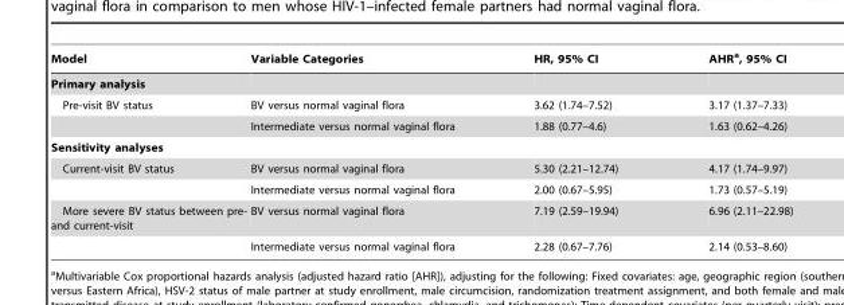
<table><thead><tr><td>Model</td><td>Variable Categories</td><td>HR, 95% CI</td><td>AHR<sup>a</sup>, 95% CI</td></tr></thead><tbody><tr><td colspan="4">Primary analysis</td></tr><tr><td rowspan="2">Pre-visit BV status</td><td>BV versus normal vaginal flora</td><td>3.62 (1.74–7.52)</td><td>3.17 (1.37–7.33)</td></tr><tr><td>Intermediate versus normal vaginal flora</td><td>1.88 (0.77–4.6)</td><td>1.63 (0.62–4.26)</td></tr><tr><td colspan="4">Sensitivity analyses</td></tr><tr><td rowspan="2">Current-visit BV status</td><td>BV versus normal vaginal flora</td><td>5.30 (2.21–12.74)</td><td>4.17 (1.74–9.97)</td></tr><tr><td>Intermediate versus normal vaginal flora</td><td>2.00 (0.67–5.95)</td><td>1.73 (0.57–5.19)</td></tr><tr><td rowspan="2">More severe BV status between pre- and current-visit</td><td>BV versus normal vaginal flora</td><td>7.19 (2.59–19.94)</td><td>6.96 (2.11–22.98)</td></tr><tr><td>Intermediate versus normal vaginal flora</td><td>2.28 (0.67–7.76)</td><td>2.14 (0.53–8.60)</td></tr></tbody></table>